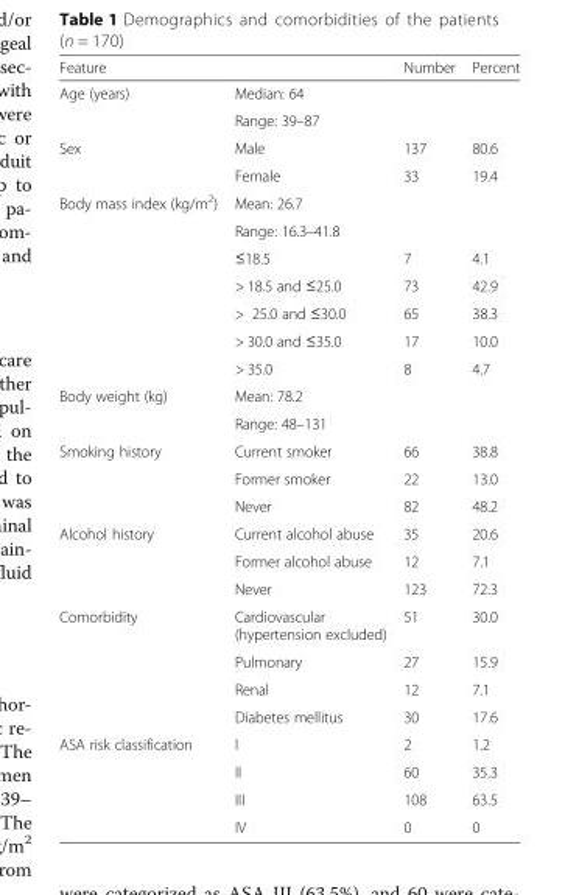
<table><thead><tr><td>Feature</td><td></td><td>Number</td><td>Percent</td></tr></thead><tbody><tr><td rowspan="2">Age (years)</td><td>Median: 64</td><td rowspan="2"></td><td rowspan="2"></td></tr><tr><td>Range: 39–87</td></tr><tr><td rowspan="2">Sex</td><td>Male</td><td>137</td><td>80.6</td></tr><tr><td>Female</td><td>33</td><td>19.4</td></tr><tr><td rowspan="7">Body mass index (kg/m<sup>2</sup>)</td><td>Mean: 26.7</td><td rowspan="2"></td><td rowspan="2"></td></tr><tr><td>Range: 16.3–41.8</td></tr><tr><td>≤18.5</td><td>7</td><td>4.1</td></tr><tr><td>&gt; 18.5 and ≤25.0</td><td>73</td><td>42.9</td></tr><tr><td>&gt; 25.0 and ≤30.0</td><td>65</td><td>38.3</td></tr><tr><td>&gt; 30.0 and ≤35.0</td><td>17</td><td>10.0</td></tr><tr><td>&gt; 35.0</td><td>8</td><td>4.7</td></tr><tr><td rowspan="2">Body weight (kg)</td><td>Mean: 78.2</td><td rowspan="2"></td><td rowspan="2"></td></tr><tr><td>Range: 48–131</td></tr><tr><td rowspan="3">Smoking history</td><td>Current smoker</td><td>66</td><td>38.8</td></tr><tr><td>Former smoker</td><td>22</td><td>13.0</td></tr><tr><td>Never</td><td>82</td><td>48.2</td></tr><tr><td rowspan="3">Alcohol history</td><td>Current alcohol abuse</td><td>35</td><td>20.6</td></tr><tr><td>Former alcohol abuse</td><td>12</td><td>7.1</td></tr><tr><td>Never</td><td>123</td><td>72.3</td></tr><tr><td rowspan="4">Comorbidity</td><td>Cardiovascular (hypertension excluded)</td><td>51</td><td>30.0</td></tr><tr><td>Pulmonary</td><td>27</td><td>15.9</td></tr><tr><td>Renal</td><td>12</td><td>7.1</td></tr><tr><td>Diabetes mellitus</td><td>30</td><td>17.6</td></tr><tr><td rowspan="4">ASA risk classification</td><td>I</td><td>2</td><td>1.2</td></tr><tr><td>II</td><td>60</td><td>35.3</td></tr><tr><td>III</td><td>108</td><td>63.5</td></tr><tr><td>IV</td><td>0</td><td>0</td></tr></tbody></table>